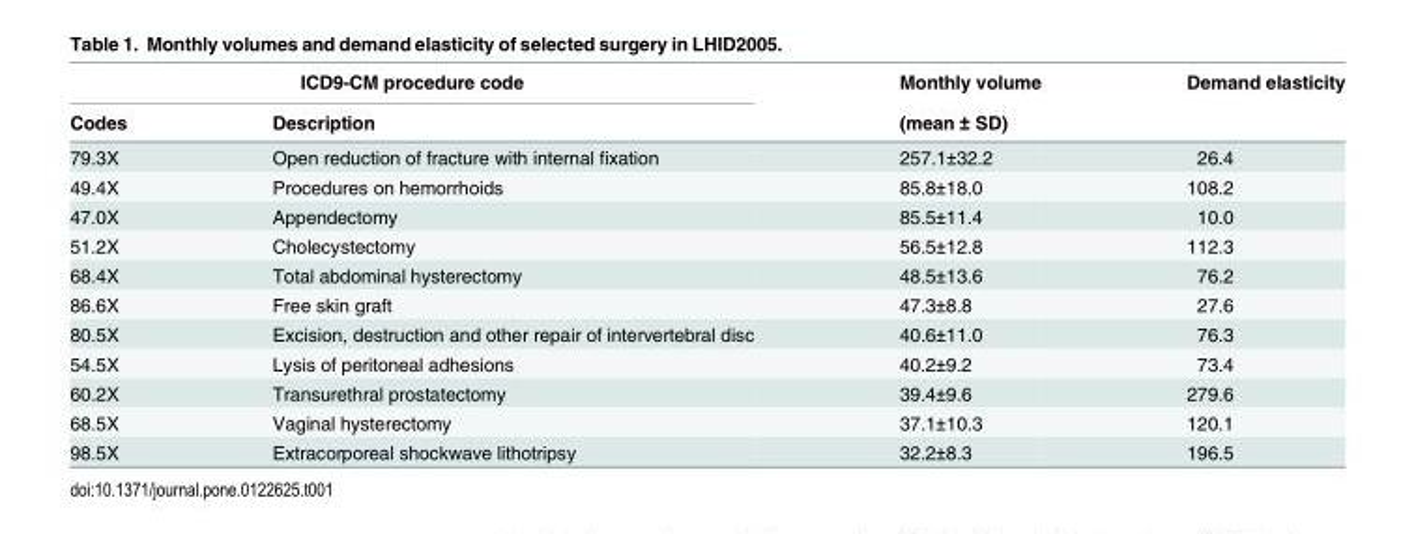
<table><thead><tr><td colspan="2">ICD9-CM procedure code</td><td rowspan="2">Monthly volume (mean ± SD)</td><td rowspan="2">Demand elasticity</td></tr><tr><td>Codes</td><td>Description</td></tr></thead><tbody><tr><td>79.3X</td><td>Open reduction of fracture with internal fixation</td><td>257.1±32.2</td><td>26.4</td></tr><tr><td>49.4X</td><td>Procedures on hemorrhoids</td><td>85.8±18.0</td><td>108.2</td></tr><tr><td>47.0X</td><td>Appendectomy</td><td>85.5±11.4</td><td>10.0</td></tr><tr><td>51.2X</td><td>Cholecystectomy</td><td>56.5±12.8</td><td>112.3</td></tr><tr><td>68.4X</td><td>Total abdominal hysterectomy</td><td>48.5±13.6</td><td>76.2</td></tr><tr><td>86.6X</td><td>Free skin graft</td><td>47.3±8.8</td><td>27.6</td></tr><tr><td>80.5X</td><td>Excision, destruction and other repair of intervertebral disc</td><td>40.6±11.0</td><td>76.3</td></tr><tr><td>54.5X</td><td>Lysis of peritoneal adhesions</td><td>40.2±9.2</td><td>73.4</td></tr><tr><td>60.2X</td><td>Transurethral prostatectomy</td><td>39.4±9.6</td><td>279.6</td></tr><tr><td>68.5X</td><td>Vaginal hysterectomy</td><td>37.1±10.3</td><td>120.1</td></tr><tr><td>98.5X</td><td>Extracorporeal shockwave lithotripsy</td><td>32.2±8.3</td><td>196.5</td></tr></tbody></table>